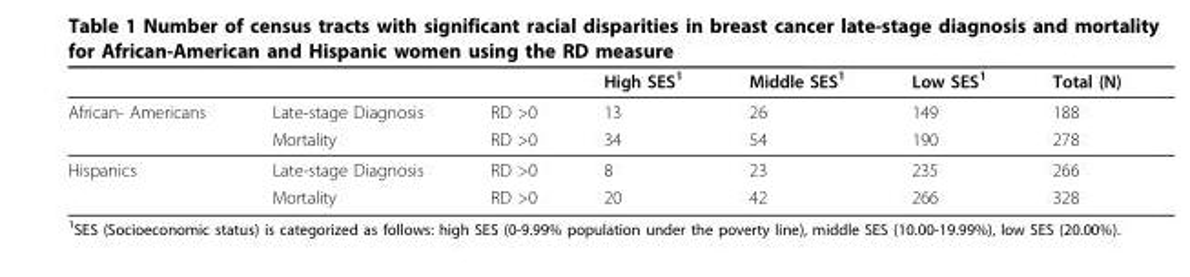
<table><thead><tr><td></td><td></td><td></td><td>High SES<sup>1</sup></td><td>Middle SES<sup>1</sup></td><td>Low SES<sup>1</sup></td><td>Total (N)</td></tr></thead><tbody><tr><td rowspan="2">African- Americans</td><td>Late-stage Diagnosis</td><td>RD &gt;0</td><td>13</td><td>26</td><td>149</td><td>188</td></tr><tr><td>Mortality</td><td>RD &gt;0</td><td>34</td><td>54</td><td>190</td><td>278</td></tr><tr><td rowspan="2">Hispanics</td><td>Late-stage Diagnosis</td><td>RD &gt;0</td><td>8</td><td>23</td><td>235</td><td>266</td></tr><tr><td>Mortality</td><td>RD &gt;0</td><td>20</td><td>42</td><td>266</td><td>328</td></tr></tbody></table>